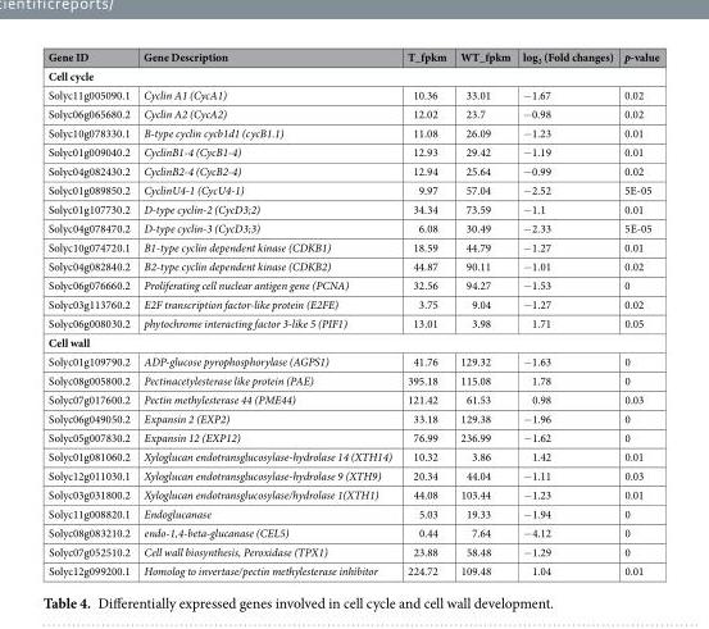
<table><thead><tr><td>Gene ID</td><td>Gene Description</td><td>T_fpkm</td><td>WT_fpkm</td><td>log<sub>2</sub> (Fold changes)</td><td>p-value</td></tr></thead><tbody><tr><td colspan="6">Cell cycle</td></tr><tr><td>Solyc11g005090.1</td><td>Cyclin A1 (CycA1)</td><td>10.36</td><td>33.01</td><td>−1.67</td><td>0.02</td></tr><tr><td>Solyc06g065680.2</td><td>Cyclin A2 (CycA2)</td><td>12.02</td><td>23.7</td><td>−0.98</td><td>0.02</td></tr><tr><td>Solyc10g078330.1</td><td>B-type cyclin cycb1d1 (cycB1.1)</td><td>11.08</td><td>26.09</td><td>−1.23</td><td>0.01</td></tr><tr><td>Solyc01g009040.2</td><td>CyclinB1-4 (CycB1-4)</td><td>12.93</td><td>29.42</td><td>−1.19</td><td>0.01</td></tr><tr><td>Solyc04g082430.2</td><td>CyclinB2-4 (CycB2-4)</td><td>12.94</td><td>25.64</td><td>−0.99</td><td>0.02</td></tr><tr><td>Solyc01g089850.2</td><td>CyclinU4-1 (CycU4-1)</td><td>9.97</td><td>57.04</td><td>−2.52</td><td>5E-05</td></tr><tr><td>Solyc01g107730.2</td><td>D-type cyclin-2 (CycD3;2)</td><td>34.34</td><td>73.59</td><td>−1.1</td><td>0.01</td></tr><tr><td>Solyc04g078470.2</td><td>D-type cyclin-3 (CycD3;3)</td><td>6.08</td><td>30.49</td><td>−2.33</td><td>5E-05</td></tr><tr><td>Solyc10g074720.1</td><td>B1-type cyclin dependent kinase (CDKB1)</td><td>18.59</td><td>44.79</td><td>−1.27</td><td>0.01</td></tr><tr><td>Solyc04g082840.2</td><td>B2-type cyclin dependent kinase (CDKB2)</td><td>44.87</td><td>90.11</td><td>−1.01</td><td>0.02</td></tr><tr><td>Solyc06g076660.2</td><td>Proliferating cell nuclear antigen gene (PCNA)</td><td>32.56</td><td>94.27</td><td>−1.53</td><td>0</td></tr><tr><td>Solyc03g113760.2</td><td>E2F transcription factor-like protein (E2FE)</td><td>3.75</td><td>9.04</td><td>−1.27</td><td>0.02</td></tr><tr><td>Solyc06g008030.2</td><td>phytochrome interacting factor 3-like 5 (PIF1)</td><td>13.01</td><td>3.98</td><td>1.71</td><td>0.05</td></tr><tr><td colspan="6">Cell wall</td></tr><tr><td>Solyc01g109790.2</td><td>ADP-glucose pyrophosphorylase (AGPS1)</td><td>41.76</td><td>129.32</td><td>−1.63</td><td>0</td></tr><tr><td>Solyc08g005800.2</td><td>Pectinacetylesterase like protein (PAE)</td><td>395.18</td><td>115.08</td><td>1.78</td><td>0</td></tr><tr><td>Solyc07g017600.2</td><td>Pectin methylesterase 44 (PME44)</td><td>121.42</td><td>61.53</td><td>0.98</td><td>0.03</td></tr><tr><td>Solyc06g049050.2</td><td>Expansin 2 (EXP2)</td><td>33.18</td><td>129.38</td><td>−1.96</td><td>0</td></tr><tr><td>Solyc05g007830.2</td><td>Expansin 12 (EXP12)</td><td>76.99</td><td>236.99</td><td>−1.62</td><td>0</td></tr><tr><td>Solyc01g081060.2</td><td>Xyloglucan endotransglucosylase-hydrolase 14 (XTH14)</td><td>10.32</td><td>3.86</td><td>1.42</td><td>0.01</td></tr><tr><td>Solyc12g011030.1</td><td>Xyloglucan endotransglucosylase-hydrolase 9 (XTH9)</td><td>20.34</td><td>44.04</td><td>−1.11</td><td>0.03</td></tr><tr><td>Solyc03g031800.2</td><td>Xyloglucan endotransglucosylase/hydrolase 1(XTH1)</td><td>44.08</td><td>103.44</td><td>−1.23</td><td>0.01</td></tr><tr><td>Solyc11g008820.1</td><td>Endoglucanase</td><td>5.03</td><td>19.33</td><td>−1.94</td><td>0</td></tr><tr><td>Solyc08g083210.2</td><td>endo-1,4-beta-glucanase (CEL5)</td><td>0.44</td><td>7.64</td><td>−4.12</td><td>0</td></tr><tr><td>Solyc07g052510.2</td><td>Cell wall biosynthesis, Peroxidase (TPX1)</td><td>23.88</td><td>58.48</td><td>−1.29</td><td>0</td></tr><tr><td>Solyc12g099200.1</td><td>Homolog to invertase/pectin methylesterase inhibitor</td><td>224.72</td><td>109.48</td><td>1.04</td><td>0.01</td></tr></tbody></table>